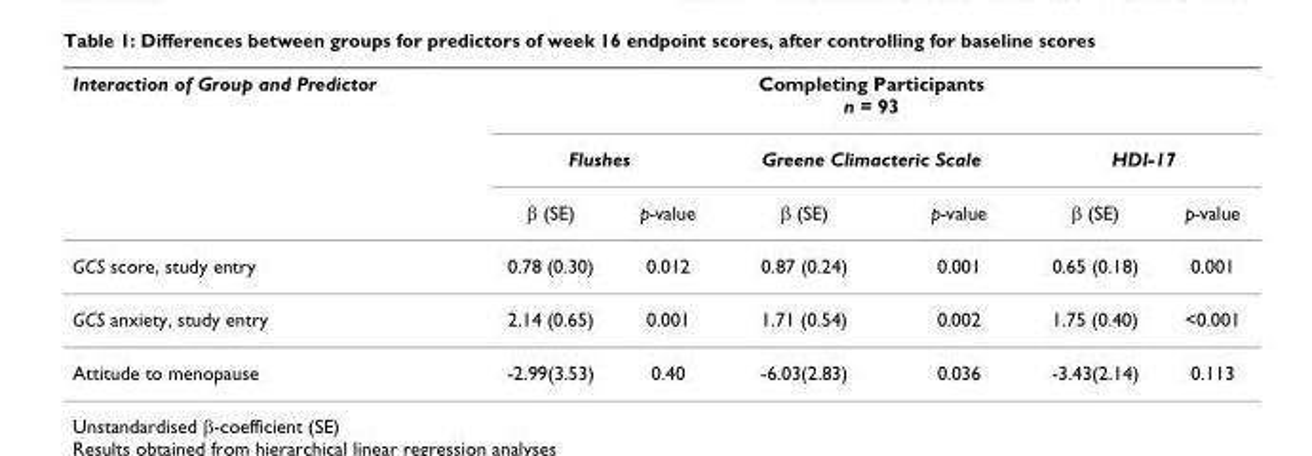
<table><thead><tr><td rowspan="3">Interaction of Group and Predictor</td><td colspan="6">Completing Participants n = 93</td></tr><tr><td colspan="2">Flushes</td><td colspan="2">Greene Climacteric Scale</td><td colspan="2">HDI-17</td></tr><tr><td>β (SE)</td><td>p-value</td><td>β (SE)</td><td>p-value</td><td>β (SE)</td><td>p-value</td></tr></thead><tbody><tr><td>GCS score, study entry</td><td>0.78 (0.30)</td><td>0.012</td><td>0.87 (0.24)</td><td>0.001</td><td>0.65 (0.18)</td><td>0.001</td></tr><tr><td>GCS anxiety, study entry</td><td>2.14 (0.65)</td><td>0.001</td><td>1.71 (0.54)</td><td>0.002</td><td>1.75 (0.40)</td><td>&lt;0.001</td></tr><tr><td>Attitude to menopause</td><td>-2.99(3.53)</td><td>0.40</td><td>-6.03(2.83)</td><td>0.036</td><td>-3.43(2.14)</td><td>0.113</td></tr></tbody></table>